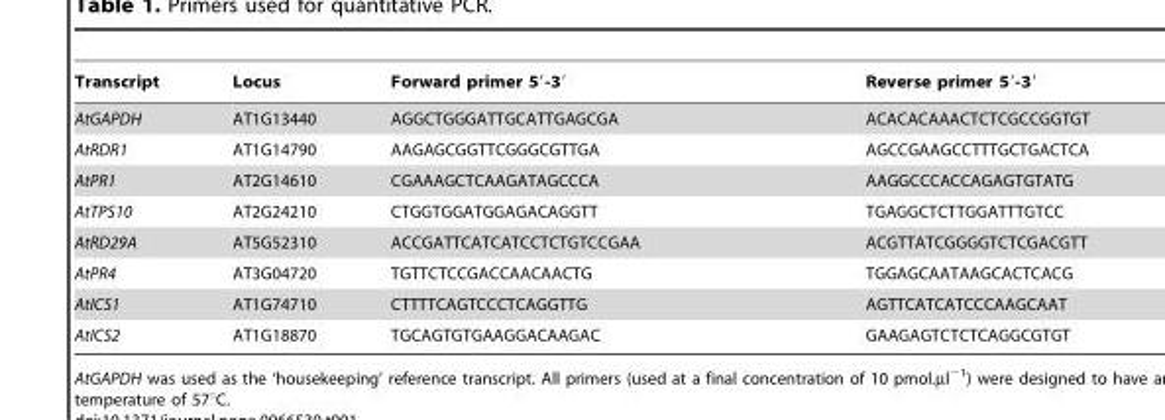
<table><thead><tr><td>Transcript</td><td>Locus</td><td>Forward primer 5′-3′</td><td>Reverse primer 5′-3′</td></tr></thead><tbody><tr><td>AtGAPDH</td><td>AT1G13440</td><td>AGGCTGGGATTGCATTGAGCGA</td><td>ACACACAAACTCTCGCCGGTGT</td></tr><tr><td>AtRDR1</td><td>AT1G14790</td><td>AAGAGCGGTTCGGGCGTTGA</td><td>AGCCGAAGCCTTTGCTGACTCA</td></tr><tr><td>AtPR1</td><td>AT2G14610</td><td>CGAAAGCTCAAGATAGCCCA</td><td>AAGGCCCACCAGAGTGTATG</td></tr><tr><td>AtTPS10</td><td>AT2G24210</td><td>CTGGTGGATGGAGACAGGTT</td><td>TGAGGCTCTTGGATTTGTCC</td></tr><tr><td>AtRD29A</td><td>AT5G52310</td><td>ACCGATTCATCATCCTCTGTCCGAA</td><td>ACGTTATCGGGGTCTCGACGTT</td></tr><tr><td>AtPR4</td><td>AT3G04720</td><td>TGTTCTCCGACCAACAACTG</td><td>TGGAGCAATAAGCACTCACG</td></tr><tr><td>AtICS1</td><td>AT1G74710</td><td>CTTTTCAGTCCCTCAGGTTG</td><td>AGTTCATCATCCCAAGCAAT</td></tr><tr><td>AtICS2</td><td>AT1G18870</td><td>TGCAGTGTGAAGGACAAGAC</td><td>GAAGAGTCTCTCAGGCGTGT</td></tr></tbody></table>